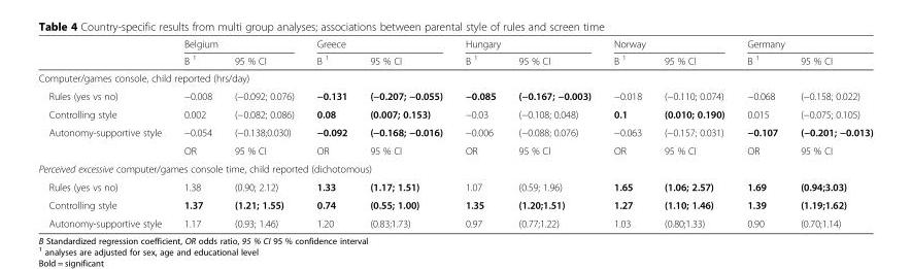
<table><thead><tr><td rowspan="2"></td><td colspan="2">Belgium</td><td colspan="2">Greece</td><td colspan="2">Hungary</td><td colspan="2">Norway</td><td colspan="2">Germany</td></tr><tr><td>B <sup>1</sup></td><td>95 % CI</td><td>B <sup>1</sup></td><td>95 % CI</td><td>B <sup>1</sup></td><td>95 % CI</td><td>B <sup>1</sup></td><td>95 % CI</td><td>B <sup>1</sup></td><td>95 % CI</td></tr></thead><tbody><tr><td colspan="11">Computer/games console, child reported (hrs/day)</td></tr><tr><td>Rules (yes vs no)</td><td>−0.008</td><td>(−0.092; 0.076)</td><td>−0.131</td><td>(−0.207; −0.055)</td><td>−0.085</td><td>(−0.167; −0.003)</td><td>−0.018</td><td>(−0.110; 0.074)</td><td>−0.068</td><td>(−0.158; 0.022)</td></tr><tr><td>Controlling style</td><td>0.002</td><td>(−0.082; 0.086)</td><td>0.08</td><td>(0.007; 0.153)</td><td>−0.03</td><td>(−0.108; 0.048)</td><td>0.1</td><td>(0.010; 0.190)</td><td>0.015</td><td>(−0.075; 0.105)</td></tr><tr><td rowspan="2">Autonomy-supportive style</td><td>−0.054</td><td>(−0.138;0.030)</td><td>−0.092</td><td>(−0.168; −0.016)</td><td>−0.006</td><td>(−0.088; 0.076)</td><td>−0.063</td><td>(−0.157; 0.031)</td><td>−0.107</td><td>(−0.201; −0.013)</td></tr><tr><td>OR</td><td>95 % CI</td><td>OR</td><td>95 % CI</td><td>OR</td><td>95 % CI</td><td>OR</td><td>95 % CI</td><td>OR</td><td>95 % CI</td></tr><tr><td colspan="11">Perceived excessive computer/games console time, child reported (dichotomous)</td></tr><tr><td>Rules (yes vs no)</td><td>1.38</td><td>(0.90; 2.12)</td><td>1.33</td><td>(1.17; 1.51)</td><td>1.07</td><td>(0.59; 1.96)</td><td>1.65</td><td>(1.06; 2.57)</td><td>1.69</td><td>(0.94;3.03)</td></tr><tr><td>Controlling style</td><td>1.37</td><td>(1.21; 1.55)</td><td>0.74</td><td>(0.55; 1.00)</td><td>1.35</td><td>(1.20;1.51)</td><td>1.27</td><td>(1.10; 1.46)</td><td>1.39</td><td>(1.19;1.62)</td></tr><tr><td>Autonomy-supportive style</td><td>1.17</td><td>(0.93; 1.46)</td><td>1.20</td><td>(0.83;1.73)</td><td>0.97</td><td>(0.77;1.22)</td><td>1.03</td><td>(0.80;1.33)</td><td>0.90</td><td>(0.70;1.14)</td></tr></tbody></table>